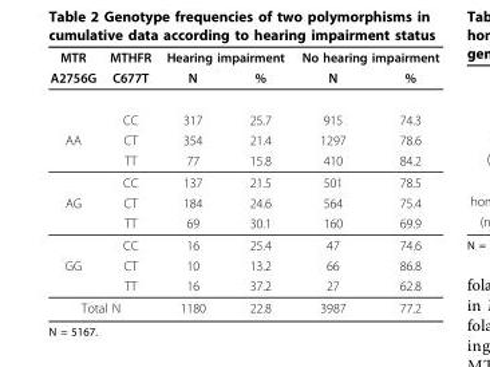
<table><thead><tr><td rowspan="2">MTR A2756G</td><td rowspan="2">MTHFR C677T</td><td colspan="2">Hearing impairment</td><td colspan="2">No hearing impairment</td></tr><tr><td>N</td><td>%</td><td>N</td><td>%</td></tr></thead><tbody><tr><td></td><td>CC</td><td>317</td><td>25.7</td><td>915</td><td>74.3</td></tr><tr><td rowspan="3">AA</td><td>CT</td><td>354</td><td>21.4</td><td>1297</td><td>78.6</td></tr><tr><td>TT</td><td>77</td><td>15.8</td><td>410</td><td>84.2</td></tr><tr><td>CC</td><td>137</td><td>21.5</td><td>501</td><td>78.5</td></tr><tr><td rowspan="3">AG</td><td>CT</td><td>184</td><td>24.6</td><td>564</td><td>75.4</td></tr><tr><td>TT</td><td>69</td><td>30.1</td><td>160</td><td>69.9</td></tr><tr><td>CC</td><td>16</td><td>25.4</td><td>47</td><td>74.6</td></tr><tr><td rowspan="2">GG</td><td>CT</td><td>10</td><td>13.2</td><td>66</td><td>86.8</td></tr><tr><td>TT</td><td>16</td><td>37.2</td><td>27</td><td>62.8</td></tr><tr><td colspan="2">Total N</td><td>1180</td><td>22.8</td><td>3987</td><td>77.2</td></tr></tbody></table>